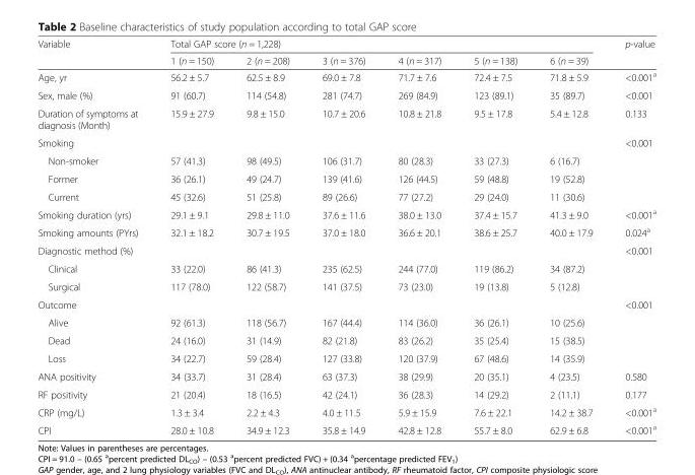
<table><thead><tr><td rowspan="2">Variable</td><td colspan="6">Total GAP score (n = 1,228)</td><td rowspan="2">p-value</td></tr><tr><td>1 (n = 150)</td><td>2 (n = 208)</td><td>3 (n = 376)</td><td>4 (n = 317)</td><td>5 (n = 138)</td><td>6 (n = 39)</td></tr></thead><tbody><tr><td>Age, yr</td><td>56.2 ± 5.7</td><td>62.5 ± 8.9</td><td>69.0 ± 7.8</td><td>71.7 ± 7.6</td><td>72.4 ± 7.5</td><td>71.8 ± 5.9</td><td>&lt;0.001<sup>a</sup></td></tr><tr><td>Sex, male (%)</td><td>91 (60.7)</td><td>114 (54.8)</td><td>281 (74.7)</td><td>269 (84.9)</td><td>123 (89.1)</td><td>35 (89.7)</td><td>&lt;0.001</td></tr><tr><td>Duration of symptoms at diagnosis (Month)</td><td>15.9 ± 27.9</td><td>9.8 ± 15.0</td><td>10.7 ± 20.6</td><td>10.8 ± 21.8</td><td>9.5 ± 17.8</td><td>5.4 ± 12.8</td><td>0.133</td></tr><tr><td>Smoking</td><td></td><td></td><td></td><td></td><td></td><td></td><td>&lt;0.001</td></tr><tr><td>Non-smoker</td><td>57 (41.3)</td><td>98 (49.5)</td><td>106 (31.7)</td><td>80 (28.3)</td><td>33 (27.3)</td><td>6 (16.7)</td><td></td></tr><tr><td>Former</td><td>36 (26.1)</td><td>49 (24.7)</td><td>139 (41.6)</td><td>126 (44.5)</td><td>59 (48.8)</td><td>19 (52.8)</td><td></td></tr><tr><td>Current</td><td>45 (32.6)</td><td>51 (25.8)</td><td>89 (26.6)</td><td>77 (27.2)</td><td>29 (24.0)</td><td>11 (30.6)</td><td></td></tr><tr><td>Smoking duration (yrs)</td><td>29.1 ± 9.1</td><td>29.8 ± 11.0</td><td>37.6 ± 11.6</td><td>38.0 ± 13.0</td><td>37.4 ± 15.7</td><td>41.3 ± 9.0</td><td>&lt;0.001<sup>a</sup></td></tr><tr><td>Smoking amounts (PYrs)</td><td>32.1 ± 18.2</td><td>30.7 ± 19.5</td><td>37.0 ± 18.0</td><td>36.6 ± 20.1</td><td>38.6 ± 25.7</td><td>40.0 ± 17.9</td><td>0.024<sup>a</sup></td></tr><tr><td>Diagnostic method (%)</td><td></td><td></td><td></td><td></td><td></td><td></td><td>&lt;0.001</td></tr><tr><td>Clinical</td><td>33 (22.0)</td><td>86 (41.3)</td><td>235 (62.5)</td><td>244 (77.0)</td><td>119 (86.2)</td><td>34 (87.2)</td><td></td></tr><tr><td>Surgical</td><td>117 (78.0)</td><td>122 (58.7)</td><td>141 (37.5)</td><td>73 (23.0)</td><td>19 (13.8)</td><td>5 (12.8)</td><td></td></tr><tr><td>Outcome</td><td></td><td></td><td></td><td></td><td></td><td></td><td>&lt;0.001</td></tr><tr><td>Alive</td><td>92 (61.3)</td><td>118 (56.7)</td><td>167 (44.4)</td><td>114 (36.0)</td><td>36 (26.1)</td><td>10 (25.6)</td><td></td></tr><tr><td>Dead</td><td>24 (16.0)</td><td>31 (14.9)</td><td>82 (21.8)</td><td>83 (26.2)</td><td>35 (25.4)</td><td>15 (38.5)</td><td></td></tr><tr><td>Loss</td><td>34 (22.7)</td><td>59 (28.4)</td><td>127 (33.8)</td><td>120 (37.9)</td><td>67 (48.6)</td><td>14 (35.9)</td><td></td></tr><tr><td>ANA positivity</td><td>34 (33.7)</td><td>31 (28.4)</td><td>63 (37.3)</td><td>38 (29.9)</td><td>20 (35.1)</td><td>4 (23.5)</td><td>0.580</td></tr><tr><td>RF positivity</td><td>21 (20.4)</td><td>18 (16.5)</td><td>42 (24.1)</td><td>36 (28.3)</td><td>14 (29.2)</td><td>2 (11.1)</td><td>0.177</td></tr><tr><td>CRP (mg/L)</td><td>1.3 ± 3.4</td><td>2.2 ± 4.3</td><td>4.0 ± 11.5</td><td>5.9 ± 15.9</td><td>7.6 ± 22.1</td><td>14.2 ± 38.7</td><td>&lt;0.001<sup>a</sup></td></tr><tr><td>CPI</td><td>28.0 ± 10.8</td><td>34.9 ± 12.3</td><td>35.8 ± 14.9</td><td>42.8 ± 12.8</td><td>55.7 ± 8.0</td><td>62.9 ± 6.8</td><td>&lt;0.001<sup>a</sup></td></tr></tbody></table>